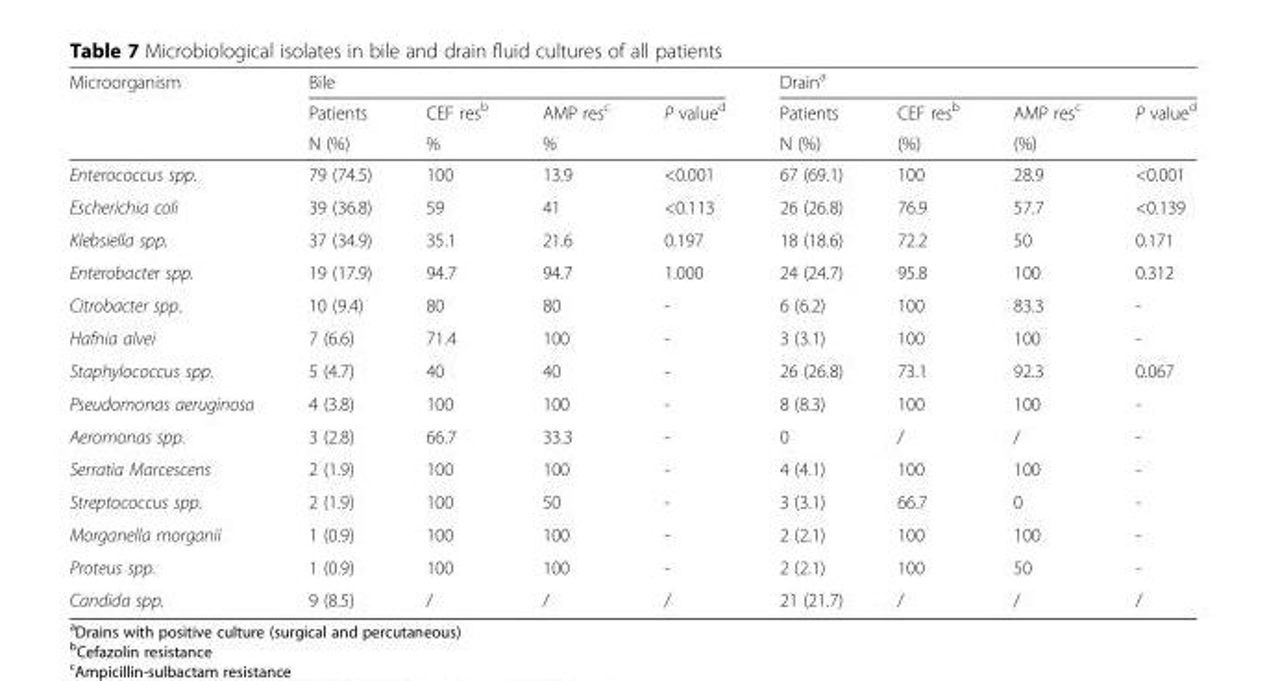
<table><thead><tr><td rowspan="3">Microorganism</td><td colspan="4">Bile</td><td colspan="4">Drain<sup>a</sup></td></tr><tr><td rowspan="2">Patients N (%)</td><td rowspan="2">CEF res<sup>b</sup> %</td><td rowspan="2">AMP res<sup>c</sup> %</td><td rowspan="2">P value<sup>d</sup></td><td rowspan="2">Patients N (%)</td><td rowspan="2">CEF res<sup>b</sup> (%)</td><td rowspan="2">AMP res<sup>c</sup> (%)</td><td rowspan="2">P value<sup>d</sup></td></tr><tr></tr></thead><tbody><tr><td>Enterococcus spp.</td><td>79 (74.5)</td><td>100</td><td>13.9</td><td>&lt;0.001</td><td>67 (69.1)</td><td>100</td><td>28.9</td><td>&lt;0.001</td></tr><tr><td>Escherichia coli</td><td>39 (36.8)</td><td>59</td><td>41</td><td>&lt;0.113</td><td>26 (26.8)</td><td>76.9</td><td>57.7</td><td>&lt;0.139</td></tr><tr><td>Klebsiella spp.</td><td>37 (34.9)</td><td>35.1</td><td>21.6</td><td>0.197</td><td>18 (18.6)</td><td>72.2</td><td>50</td><td>0.171</td></tr><tr><td>Enterobacter spp.</td><td>19 (17.9)</td><td>94.7</td><td>94.7</td><td>1.000</td><td>24 (24.7)</td><td>95.8</td><td>100</td><td>0.312</td></tr><tr><td>Citrobacter spp.</td><td>10 (9.4)</td><td>80</td><td>80</td><td>-</td><td>6 (6.2)</td><td>100</td><td>83.3</td><td>-</td></tr><tr><td>Hafnia alvei</td><td>7 (6.6)</td><td>71.4</td><td>100</td><td>-</td><td>3 (3.1)</td><td>100</td><td>100</td><td>-</td></tr><tr><td>Staphylococcus spp.</td><td>5 (4.7)</td><td>40</td><td>40</td><td>-</td><td>26 (26.8)</td><td>73.1</td><td>92.3</td><td>0.067</td></tr><tr><td>Pseudomonas aeruginosa</td><td>4 (3.8)</td><td>100</td><td>100</td><td>-</td><td>8 (8.3)</td><td>100</td><td>100</td><td>-</td></tr><tr><td>Aeromonas spp.</td><td>3 (2.8)</td><td>66.7</td><td>33.3</td><td>-</td><td>0</td><td>/</td><td>/</td><td>-</td></tr><tr><td>Serratia Marcescens</td><td>2 (1.9)</td><td>100</td><td>100</td><td>-</td><td>4 (4.1)</td><td>100</td><td>100</td><td>-</td></tr><tr><td>Streptococcus spp.</td><td>2 (1.9)</td><td>100</td><td>50</td><td>-</td><td>3 (3.1)</td><td>66.7</td><td>0</td><td>-</td></tr><tr><td>Morganella morganii</td><td>1 (0.9)</td><td>100</td><td>100</td><td>-</td><td>2 (2.1)</td><td>100</td><td>100</td><td>-</td></tr><tr><td>Proteus spp.</td><td>1 (0.9)</td><td>100</td><td>100</td><td>-</td><td>2 (2.1)</td><td>100</td><td>50</td><td>-</td></tr><tr><td>Candida spp.</td><td>9 (8.5)</td><td>/</td><td>/</td><td>/</td><td>21 (21.7)</td><td>/</td><td>/</td><td>/</td></tr></tbody></table>